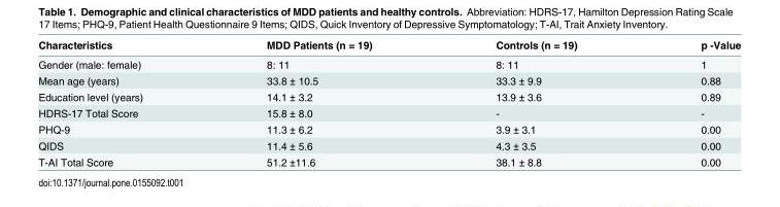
<table><thead><tr><td>Characteristics</td><td>MDD Patients (n = 19)</td><td>Controls (n = 19)</td><td>p -Value</td></tr></thead><tbody><tr><td>Gender (male: female)</td><td>8: 11</td><td>8: 11</td><td>1</td></tr><tr><td>Mean age (years)</td><td>33.8 ± 10.5</td><td>33.3 ± 9.9</td><td>0.88</td></tr><tr><td>Education level (years)</td><td>14.1 ± 3.2</td><td>13.9 ± 3.6</td><td>0.89</td></tr><tr><td>HDRS-17 Total Score</td><td>15.8 ± 8.0</td><td>-</td><td>-</td></tr><tr><td>PHQ-9</td><td>11.3 ± 6.2</td><td>3.9 ± 3.1</td><td>0.00</td></tr><tr><td>QIDS</td><td>11.4 ± 5.6</td><td>4.3 ± 3.5</td><td>0.00</td></tr><tr><td>T-AI Total Score</td><td>51.2 ±11.6</td><td>38.1 ± 8.8</td><td>0.00</td></tr></tbody></table>